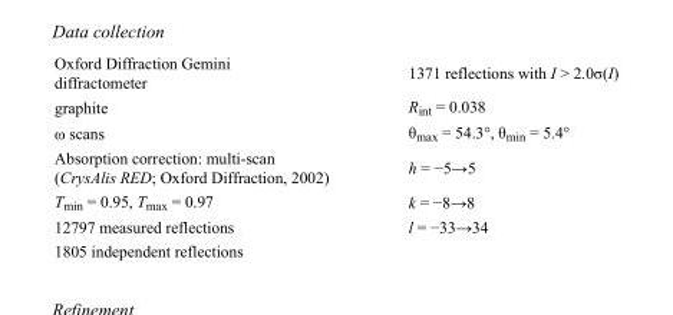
<table><tbody><tr><td>Oxford Diffraction Gemini diffractometer</td><td>1371 reflections with I &gt; 2.0σ(I)</td></tr><tr><td>graphite</td><td>R<sub>int</sub> = 0.038</td></tr><tr><td>ω scans</td><td>θ<sub>max</sub> = 54.3°, θ<sub>min</sub> = 5.4°</td></tr><tr><td>Absorption correction: multi-scan (CrysAlis RED; Oxford Diffraction, 2002)</td><td>h = −5→5</td></tr><tr><td>T<sub>min</sub> = 0.95, T<sub>max</sub> = 0.97</td><td>k = −8→8</td></tr><tr><td>12797 measured reflections</td><td>l = −33→34</td></tr><tr><td>1805 independent reflections</td><td></td></tr></tbody></table>